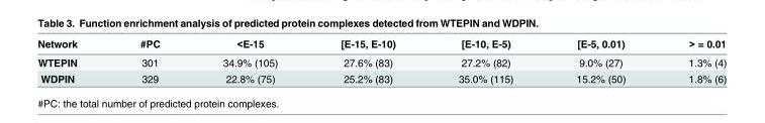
<table><thead><tr><td>Network</td><td>#PC</td><td>&lt;E-15</td><td>[E-15, E-10)</td><td>[E-10, E-5)</td><td>[E-5, 0.01)</td><td>&gt; = 0.01</td></tr></thead><tbody><tr><td>WTEPIN</td><td>301</td><td>34.9% (105)</td><td>27.6% (83)</td><td>27.2% (82)</td><td>9.0% (27)</td><td>1.3% (4)</td></tr><tr><td>WDPIN</td><td>329</td><td>22.8% (75)</td><td>25.2% (83)</td><td>35.0% (115)</td><td>15.2% (50)</td><td>1.8% (6)</td></tr></tbody></table>